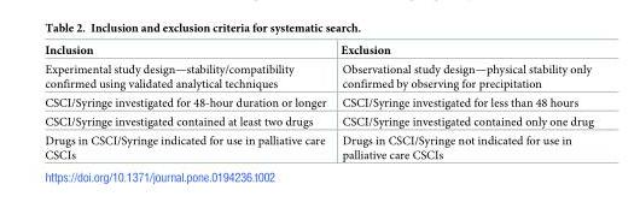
<table><thead><tr><td>Inclusion</td><td>Exclusion</td></tr></thead><tbody><tr><td>Experimental study design—stability/compatibility confirmed using validated analytical techniques</td><td>Observational study design—physical stability only confirmed by observing for precipitation</td></tr><tr><td>CSCI/Syringe investigated for 48-hour duration or longer</td><td>CSCI/Syringe investigated for less than 48 hours</td></tr><tr><td>CSCI/Syringe investigated contained at least two drugs</td><td>CSCI/Syringe investigated contained only one drug</td></tr><tr><td>Drugs in CSCI/Syringe indicated for use in palliative care CSCIs</td><td>Drugs in CSCI/Syringe not indicated for use in palliative care CSCIs</td></tr></tbody></table>